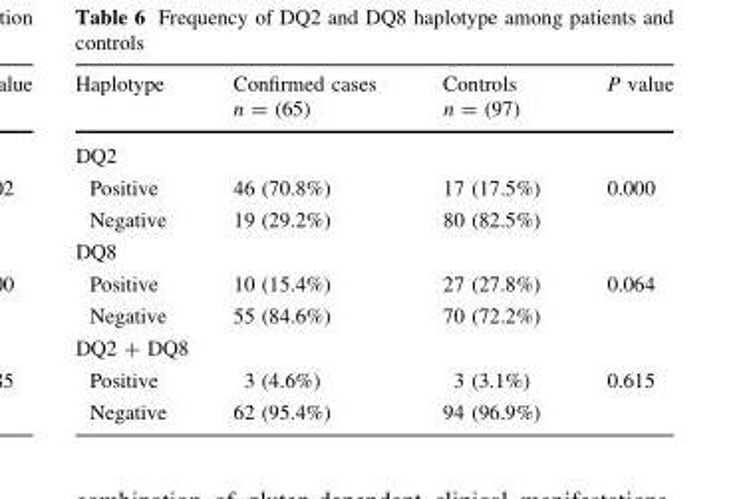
<table><thead><tr><td>Haplotype</td><td>Confirmed cases n = (65)</td><td>Controls n = (97)</td><td>P value</td></tr></thead><tbody><tr><td colspan="4">DQ2</td></tr><tr><td>Positive</td><td>46 (70.8%)</td><td>17 (17.5%)</td><td rowspan="2">0.000</td></tr><tr><td>Negative</td><td>19 (29.2%)</td><td>80 (82.5%)</td></tr><tr><td colspan="4">DQ8</td></tr><tr><td>Positive</td><td>10 (15.4%)</td><td>27 (27.8%)</td><td rowspan="2">0.064</td></tr><tr><td>Negative</td><td>55 (84.6%)</td><td>70 (72.2%)</td></tr><tr><td colspan="4">DQ2 + DQ8</td></tr><tr><td>Positive</td><td>3 (4.6%)</td><td>3 (3.1%)</td><td rowspan="2">0.615</td></tr><tr><td>Negative</td><td>62 (95.4%)</td><td>94 (96.9%)</td></tr></tbody></table>